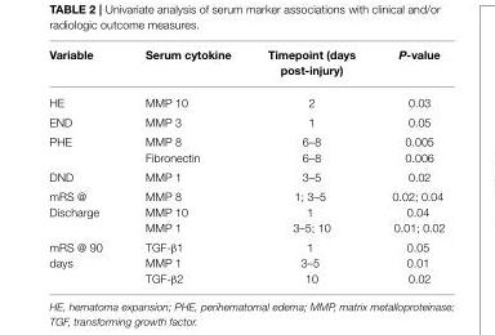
<table><thead><tr><td>Variable</td><td>Serum cytokine</td><td>Timepoint (days post-injury)</td><td>P-value</td></tr></thead><tbody><tr><td>HE</td><td>MMP 10</td><td>2</td><td>0.03</td></tr><tr><td>END</td><td>MMP 3</td><td>1</td><td>0.05</td></tr><tr><td rowspan="2">PHE</td><td>MMP 8</td><td>6–8</td><td>0.005</td></tr><tr><td>Fibronectin</td><td>6–8</td><td>0.006</td></tr><tr><td>DND</td><td>MMP 1</td><td>3–5</td><td>0.02</td></tr><tr><td>mRS @ Discharge</td><td>MMP 8 MMP 10 MMP 1</td><td>1; 3–5 1 3–5; 10</td><td>0.02; 0.04 0.04 0.01; 0.02</td></tr><tr><td>mRS @ 90 days</td><td>TGF-β1 MMP 1 TGF-β2</td><td>1 3–5 10</td><td>0.05 0.01 0.02</td></tr></tbody></table>